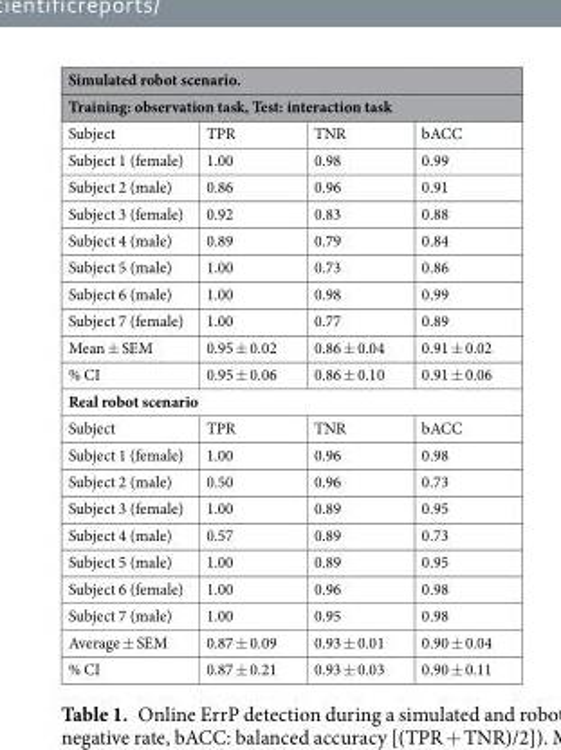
<table><thead><tr><td rowspan="2" colspan="4">Simulated robot scenario. Training: observation task, Test: interaction task</td></tr><tr></tr><tr><td>Subject</td><td>TPR</td><td>TNR</td><td>bACC</td></tr></thead><tbody><tr><td>Subject 1 (female)</td><td>1.00</td><td>0.98</td><td>0.99</td></tr><tr><td>Subject 2 (male)</td><td>0.86</td><td>0.96</td><td>0.91</td></tr><tr><td>Subject 3 (female)</td><td>0.92</td><td>0.83</td><td>0.88</td></tr><tr><td>Subject 4 (male)</td><td>0.89</td><td>0.79</td><td>0.84</td></tr><tr><td>Subject 5 (male)</td><td>1.00</td><td>0.73</td><td>0.86</td></tr><tr><td>Subject 6 (male)</td><td>1.00</td><td>0.98</td><td>0.99</td></tr><tr><td>Subject 7 (female)</td><td>1.00</td><td>0.77</td><td>0.89</td></tr><tr><td>Mean ± SEM</td><td>0.95 ± 0.02</td><td>0.86 ± 0.04</td><td>0.91 ± 0.02</td></tr><tr><td>% CI</td><td>0.95 ± 0.06</td><td>0.86 ± 0.10</td><td>0.91 ± 0.06</td></tr><tr><td colspan="4">Real robot scenario</td></tr><tr><td>Subject</td><td>TPR</td><td>TNR</td><td>bACC</td></tr><tr><td>Subject 1 (female)</td><td>1.00</td><td>0.96</td><td>0.98</td></tr><tr><td>Subject 2 (male)</td><td>0.50</td><td>0.96</td><td>0.73</td></tr><tr><td>Subject 3 (female)</td><td>1.00</td><td>0.89</td><td>0.95</td></tr><tr><td>Subject 4 (male)</td><td>0.57</td><td>0.89</td><td>0.73</td></tr><tr><td>Subject 5 (male)</td><td>1.00</td><td>0.89</td><td>0.95</td></tr><tr><td>Subject 6 (female)</td><td>1.00</td><td>0.96</td><td>0.98</td></tr><tr><td>Subject 7 (male)</td><td>1.00</td><td>0.95</td><td>0.98</td></tr><tr><td>Average ± SEM</td><td>0.87 ± 0.09</td><td>0.93 ± 0.01</td><td>0.90 ± 0.04</td></tr><tr><td>% CI</td><td>0.87 ± 0.21</td><td>0.93 ± 0.03</td><td>0.90 ± 0.11</td></tr></tbody></table>